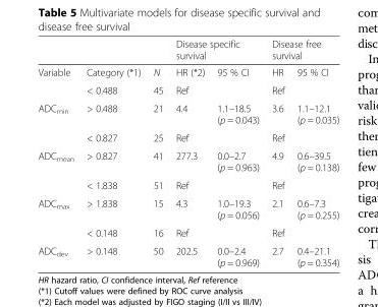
<table><thead><tr><td rowspan="2">Variable</td><td rowspan="2">Category (*1)</td><td rowspan="2">N</td><td colspan="2">Disease specific survival</td><td colspan="2">Disease free survival</td></tr><tr><td>HR (*2)</td><td>95 % CI</td><td>HR</td><td>95 % CI</td></tr></thead><tbody><tr><td></td><td>&lt; 0.488</td><td>45</td><td>Ref</td><td></td><td>Ref</td><td></td></tr><tr><td rowspan="2">ADC<sub>min</sub></td><td>&gt; 0.488</td><td>21</td><td>4.4</td><td>1.1–18.5 (p = 0.043)</td><td>3.6</td><td>1.1–12.1 (p = 0.035)</td></tr><tr><td>&lt; 0.827</td><td>25</td><td>Ref</td><td></td><td>Ref</td><td></td></tr><tr><td rowspan="2">ADC<sub>mean</sub></td><td>&gt; 0.827</td><td>41</td><td>277.3</td><td>0.0–2.7 (p = 0.963)</td><td>4.9</td><td>0.6–39.5 (p = 0.138)</td></tr><tr><td>&lt; 1.838</td><td>51</td><td>Ref</td><td></td><td>Ref</td><td></td></tr><tr><td rowspan="2">ADC<sub>max</sub></td><td>&gt; 1.838</td><td>15</td><td>4.3</td><td>1.0–19.3 (p = 0.056)</td><td>2.1</td><td>0.6–7.3 (p = 0.255)</td></tr><tr><td>&lt; 0.148</td><td>16</td><td>Ref</td><td></td><td>Ref</td><td></td></tr><tr><td>ADC<sub>dev</sub></td><td>&gt; 0.148</td><td>50</td><td>202.5</td><td>0.0–2.4 (p = 0.969)</td><td>2.7</td><td>0.4–21.1 (p = 0.354)</td></tr></tbody></table>